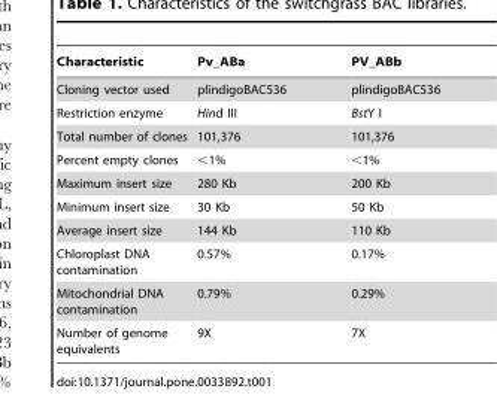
<table><thead><tr><td>Characteristic</td><td>Pv_ABa</td><td>PV_ABb</td></tr></thead><tbody><tr><td>Cloning vector used</td><td>plindigoBAC536</td><td>plindigoBAC536</td></tr><tr><td>Restriction enzyme</td><td>Hind III</td><td>BstY I</td></tr><tr><td>Total number of clones</td><td>101,376</td><td>101,376</td></tr><tr><td>Percent empty clones</td><td>&lt;1%</td><td>&lt;1%</td></tr><tr><td>Maximum insert size</td><td>280 Kb</td><td>200 Kb</td></tr><tr><td>Minimum insert size</td><td>30 Kb</td><td>50 Kb</td></tr><tr><td>Average insert size</td><td>144 Kb</td><td>110 Kb</td></tr><tr><td>Chloroplast DNA contamination</td><td>0.57%</td><td>0.17%</td></tr><tr><td>Mitochondrial DNA contamination</td><td>0.79%</td><td>0.29%</td></tr><tr><td>Number of genome equivalents</td><td>9X</td><td>7X</td></tr></tbody></table>